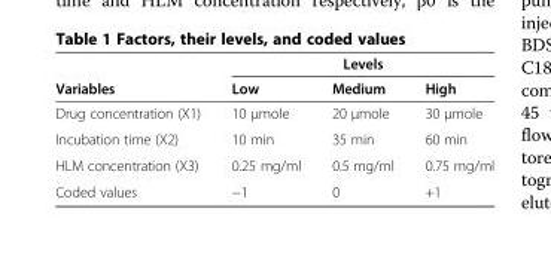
<table><thead><tr><td rowspan="2">Variables</td><td colspan="3">Levels</td></tr><tr><td>Low</td><td>Medium</td><td>High</td></tr></thead><tbody><tr><td>Drug concentration (X1)</td><td>10 μmole</td><td>20 μmole</td><td>30 μmole</td></tr><tr><td>Incubation time (X2)</td><td>10 min</td><td>35 min</td><td>60 min</td></tr><tr><td>HLM concentration (X3)</td><td>0.25 mg/ml</td><td>0.5 mg/ml</td><td>0.75 mg/ml</td></tr><tr><td>Coded values</td><td>−1</td><td>0</td><td>+1</td></tr></tbody></table>